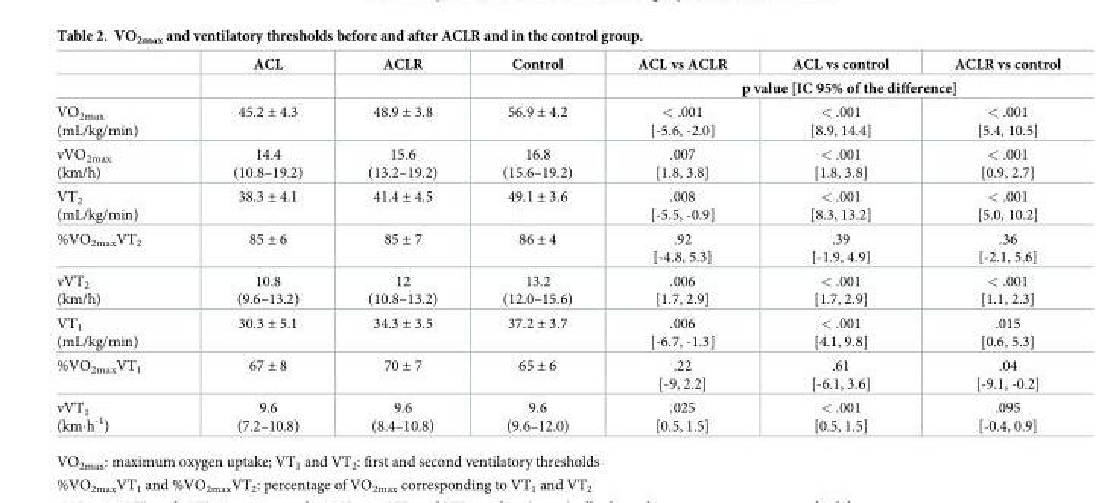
<table><thead><tr><td rowspan="2"></td><td rowspan="2">ACL</td><td rowspan="2">ACLR</td><td rowspan="2">Control</td><td>ACL vs ACLR</td><td>ACL vs control</td><td>ACLR vs control</td></tr><tr><td colspan="3">p value [IC 95% of the difference]</td></tr></thead><tbody><tr><td>VO<sub>2max</sub> (mL/kg/min)</td><td>45.2 ± 4.3</td><td>48.9 ± 3.8</td><td>56.9 ± 4.2</td><td>&lt; .001 [-5.6, -2.0]</td><td>&lt; .001 [8.9, 14.4]</td><td>&lt; .001 [5.4, 10.5]</td></tr><tr><td>vVO<sub>2max</sub> (km/h)</td><td>14.4 (10.8–19.2)</td><td>15.6 (13.2–19.2)</td><td>16.8 (15.6–19.2)</td><td>.007 [1.8, 3.8]</td><td>&lt; .001 [1.8, 3.8]</td><td>&lt; .001 [0.9, 2.7]</td></tr><tr><td>VT<sub>2</sub> (mL/kg/min)</td><td>38.3 ± 4.1</td><td>41.4 ± 4.5</td><td>49.1 ± 3.6</td><td>.008 [-5.5, -0.9]</td><td>&lt; .001 [8.3, 13.2]</td><td>&lt; .001 [5.0, 10.2]</td></tr><tr><td>%VO<sub>2max</sub>VT<sub>2</sub></td><td>85 ± 6</td><td>85 ± 7</td><td>86 ± 4</td><td>.92 [-4.8, 5.3]</td><td>.39 [-1.9, 4.9]</td><td>.36 [-2.1, 5.6]</td></tr><tr><td>vVT<sub>2</sub> (km/h)</td><td>10.8 (9.6–13.2)</td><td>12 (10.8–13.2)</td><td>13.2 (12.0–15.6)</td><td>.006 [1.7, 2.9]</td><td>&lt; .001 [1.7, 2.9]</td><td>&lt; .001 [1.1, 2.3]</td></tr><tr><td>VT<sub>1</sub> (mL/kg/min)</td><td>30.3 ± 5.1</td><td>34.3 ± 3.5</td><td>37.2 ± 3.7</td><td>.006 [-6.7, -1.3]</td><td>&lt; .001 [4.1, 9.8]</td><td>.015 [0.6, 5.3]</td></tr><tr><td>%VO<sub>2max</sub>VT<sub>1</sub></td><td>67 ± 8</td><td>70 ± 7</td><td>65 ± 6</td><td>.22 [-9, 2.2]</td><td>.61 [-6.1, 3.6]</td><td>.04 [-9.1, -0.2]</td></tr><tr><td>vVT<sub>1</sub> (km·h<sup>-1</sup>)</td><td>9.6 (7.2–10.8)</td><td>9.6 (8.4–10.8)</td><td>9.6 (9.6–12.0)</td><td>.025 [0.5, 1.5]</td><td>&lt; .001 [0.5, 1.5]</td><td>.095 [-0.4, 0.9]</td></tr></tbody></table>